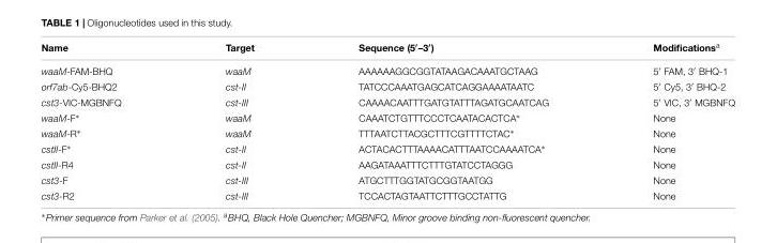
<table><thead><tr><td>Name</td><td>Target</td><td>Sequence (5′–3′)</td><td>Modifications<sup>a</sup></td></tr></thead><tbody><tr><td>waaM-FAM-BHQ</td><td>waaM</td><td>AAAAAAGGCGGTATAAGACAAATGCTAAG</td><td>5′ FAM, 3′ BHQ-1</td></tr><tr><td>orf7ab-Cy5-BHQ2</td><td>cst-II</td><td>TATCCCAAATGAGCATCAGGAAAATAATC</td><td>5′ Cy5, 3′ BHQ-2</td></tr><tr><td>cst3-VIC-MGBNFQ</td><td>cst-III</td><td>CAAAACAATTTGATGTATTTAGATGCAATCAG</td><td>5′ VIC, 3′ MGBNFQ</td></tr><tr><td>waaM-F∗</td><td>waaM</td><td>CAAATCTGTTTCCCTCAATACACTCA∗</td><td>None</td></tr><tr><td>waaM-R∗</td><td>waaM</td><td>TTTAATCTTACGCTTTCGTTTTCTAC∗</td><td>None</td></tr><tr><td>cstII-F∗</td><td>cst-II</td><td>ACTACACTTTAAAACATTTAATCCAAAATCA∗</td><td>None</td></tr><tr><td>cstII-R4</td><td>cst-II</td><td>AAGATAAATTTCTTTGTATCCTAGGG</td><td>None</td></tr><tr><td>cst3-F</td><td>cst-III</td><td>ATGCTTTGGTATGCGGTAATGG</td><td>None</td></tr><tr><td>cst3-R2</td><td>cst-III</td><td>TCCACTAGTAATTCTTTGCCTATTG</td><td>None</td></tr></tbody></table>